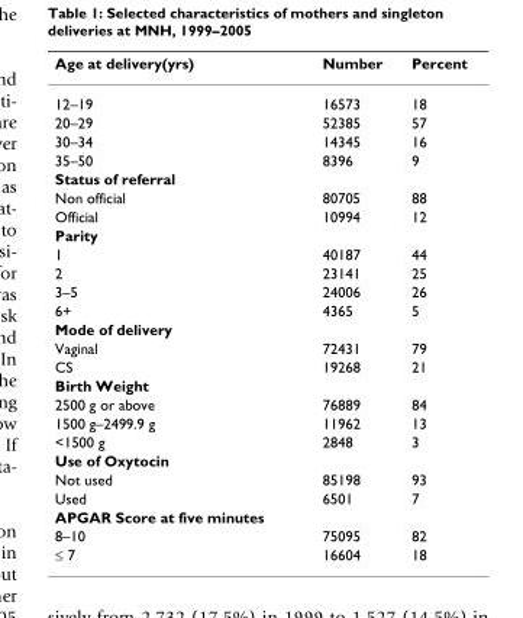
<table><thead><tr><td>Age at delivery(yrs)</td><td>Number</td><td>Percent</td></tr></thead><tbody><tr><td>12–19</td><td>16573</td><td>18</td></tr><tr><td>20–29</td><td>52385</td><td>57</td></tr><tr><td>30–34</td><td>14345</td><td>16</td></tr><tr><td>35–50</td><td>8396</td><td>9</td></tr><tr><td colspan="3">Status of referral</td></tr><tr><td>Non official</td><td>80705</td><td>88</td></tr><tr><td>Official</td><td>10994</td><td>12</td></tr><tr><td colspan="3">Parity</td></tr><tr><td>1</td><td>40187</td><td>44</td></tr><tr><td>2</td><td>23141</td><td>25</td></tr><tr><td>3–5</td><td>24006</td><td>26</td></tr><tr><td>6+</td><td>4365</td><td>5</td></tr><tr><td colspan="3">Mode of delivery</td></tr><tr><td>Vaginal</td><td>72431</td><td>79</td></tr><tr><td>CS</td><td>19268</td><td>21</td></tr><tr><td colspan="3">Birth Weight</td></tr><tr><td>2500 g or above</td><td>76889</td><td>84</td></tr><tr><td>1500 g–2499.9 g</td><td>11962</td><td>13</td></tr><tr><td>&lt;1500 g</td><td>2848</td><td>3</td></tr><tr><td colspan="3">Use of Oxytocin</td></tr><tr><td>Not used</td><td>85198</td><td>93</td></tr><tr><td>Used</td><td>6501</td><td>7</td></tr><tr><td colspan="3">APGAR Score at five minutes</td></tr><tr><td>8–10</td><td>75095</td><td>82</td></tr><tr><td>≤ 7</td><td>16604</td><td>18</td></tr></tbody></table>